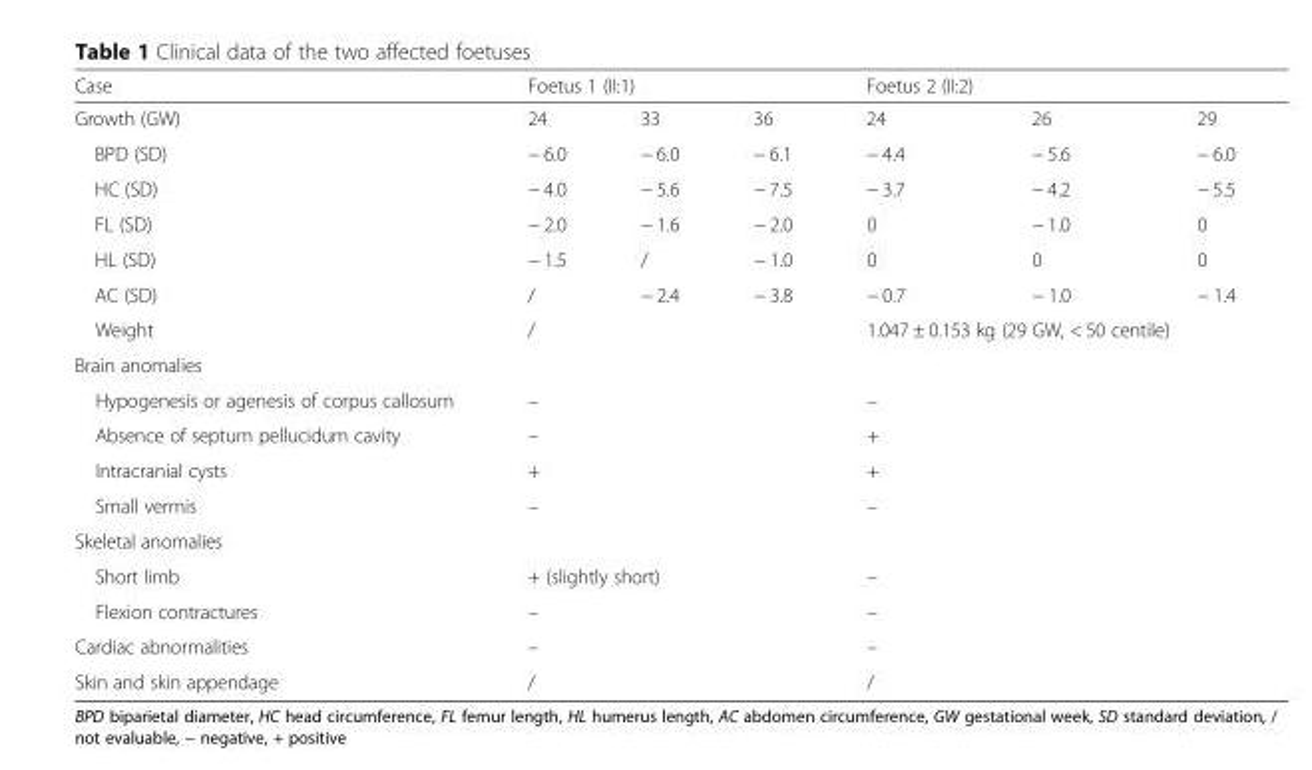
<table><thead><tr><td rowspan="2">Case Growth (GW)</td><td colspan="3">Foetus 1 (II:1)</td><td colspan="3">Foetus 2 (II:2)</td></tr><tr><td>24</td><td>33</td><td>36</td><td>24</td><td>26</td><td>29</td></tr></thead><tbody><tr><td>BPD (SD)</td><td>− 6.0</td><td>− 6.0</td><td>− 6.1</td><td>− 4.4</td><td>− 5.6</td><td>− 6.0</td></tr><tr><td>HC (SD)</td><td>− 4.0</td><td>− 5.6</td><td>− 7.5</td><td>− 3.7</td><td>− 4.2</td><td>− 5.5</td></tr><tr><td>FL (SD)</td><td>− 2.0</td><td>− 1.6</td><td>− 2.0</td><td>0</td><td>− 1.0</td><td>0</td></tr><tr><td>HL (SD)</td><td>− 1.5</td><td>/</td><td>− 1.0</td><td>0</td><td>0</td><td>0</td></tr><tr><td>AC (SD)</td><td>/</td><td>− 2.4</td><td>− 3.8</td><td>− 0.7</td><td>− 1.0</td><td>− 1.4</td></tr><tr><td>Weight</td><td colspan="3">/</td><td colspan="3">1.047 ± 0.153 kg (29 GW, &lt; 50 centile)</td></tr><tr><td colspan="7">Brain anomalies</td></tr><tr><td>Hypogenesis or agenesis of corpus callosum</td><td colspan="3">–</td><td colspan="3">–</td></tr><tr><td>Absence of septum pellucidum cavity</td><td colspan="3">–</td><td colspan="3">+</td></tr><tr><td>Intracranial cysts</td><td colspan="3">+</td><td colspan="3">+</td></tr><tr><td>Small vermis</td><td colspan="3">–</td><td colspan="3">–</td></tr><tr><td colspan="7">Skeletal anomalies</td></tr><tr><td>Short limb</td><td colspan="3">+ (slightly short)</td><td colspan="3">–</td></tr><tr><td>Flexion contractures</td><td colspan="3">–</td><td colspan="3">–</td></tr><tr><td>Cardiac abnormalities</td><td colspan="3">–</td><td colspan="3">–</td></tr><tr><td>Skin and skin appendage</td><td colspan="3">/</td><td colspan="3">/</td></tr></tbody></table>